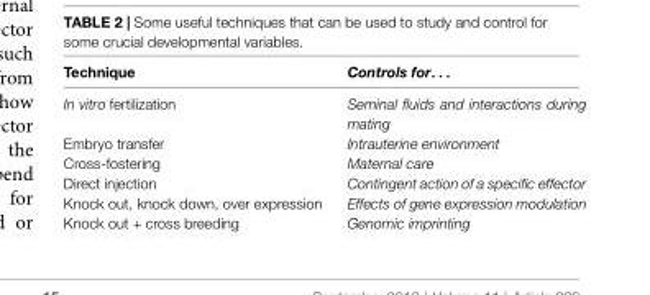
<table><thead><tr><td>Technique</td><td>Controls for. . .</td></tr></thead><tbody><tr><td>In vitro fertilization</td><td>Seminal fluids and interactions during mating</td></tr><tr><td>Embryo transfer</td><td>Intrauterine environment</td></tr><tr><td>Cross-fostering</td><td>Maternal care</td></tr><tr><td>Direct injection</td><td>Contingent action of a specific effector</td></tr><tr><td>Knock out, knock down, over expression</td><td>Effects of gene expression modulation</td></tr><tr><td>Knock out + cross breeding</td><td>Genomic imprinting</td></tr></tbody></table>